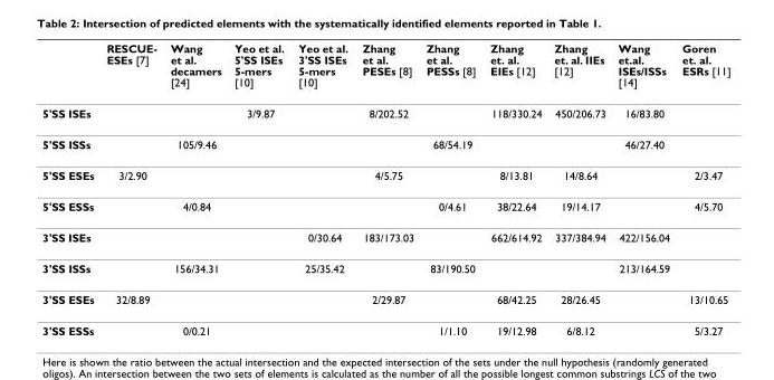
<table><thead><tr><td></td><td>RESCUE- ESEs [7]</td><td>Wang et al. decamers [24]</td><td>Yeo et al. 5&#x27;SS ISEs 5-mers [10]</td><td>Yeo et al. 3&#x27;SS ISEs 5-mers [10]</td><td>Zhang et al. PESEs [8]</td><td>Zhang et al. PESSs [8]</td><td>Zhang et. al. EIEs [12]</td><td>Zhang et. al. IIEs [12]</td><td>Wang et.al. ISEs/ISSs [14]</td><td>Goren et. al. ESRs [11]</td></tr></thead><tbody><tr><td>5&#x27;SS ISEs</td><td></td><td></td><td>3/9.87</td><td></td><td>8/202.52</td><td></td><td>118/330.24</td><td>450/206.73</td><td>16/83.80</td><td></td></tr><tr><td>5&#x27;SS ISSs</td><td></td><td>105/9.46</td><td></td><td></td><td></td><td>68/54.19</td><td></td><td></td><td>46/27.40</td><td></td></tr><tr><td>5&#x27;SS ESEs</td><td>3/2.90</td><td></td><td></td><td></td><td>4/5.75</td><td></td><td>8/13.81</td><td>14/8.64</td><td></td><td>2/3.47</td></tr><tr><td>5&#x27;SS ESSs</td><td></td><td>4/0.84</td><td></td><td></td><td></td><td>0/4.61</td><td>38/22.64</td><td>19/14.17</td><td></td><td>4/5.70</td></tr><tr><td>3&#x27;SS ISEs</td><td></td><td></td><td></td><td>0/30.64</td><td>183/173.03</td><td></td><td>662/614.92</td><td>337/384.94</td><td>422/156.04</td><td></td></tr><tr><td>3&#x27;SS ISSs</td><td></td><td>156/34.31</td><td></td><td>25/35.42</td><td></td><td>83/190.50</td><td></td><td></td><td>213/164.59</td><td></td></tr><tr><td>3&#x27;SS ESEs</td><td>32/8.89</td><td></td><td></td><td></td><td>2/29.87</td><td></td><td>68/42.25</td><td>28/26.45</td><td></td><td>13/10.65</td></tr><tr><td>3&#x27;SS ESSs</td><td></td><td>0/0.21</td><td></td><td></td><td></td><td>1/1.10</td><td>19/12.98</td><td>6/8.12</td><td></td><td>5/3.27</td></tr></tbody></table>